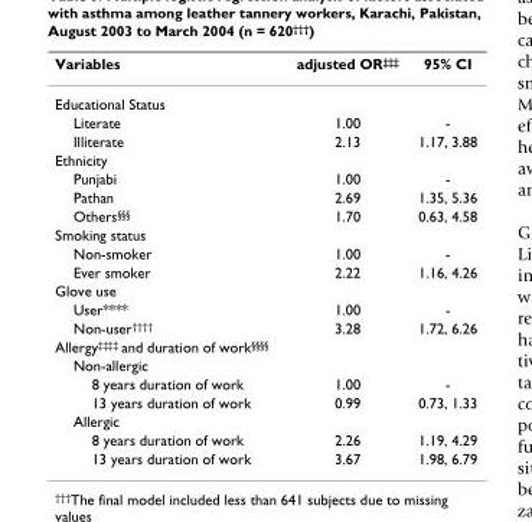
<table><thead><tr><td>Variables</td><td>adjusted OR‡‡‡</td><td>95% CI</td></tr></thead><tbody><tr><td colspan="3">Educational Status</td></tr><tr><td>Literate</td><td>1.00</td><td>-</td></tr><tr><td>Illiterate</td><td>2.13</td><td>1.17, 3.88</td></tr><tr><td colspan="3">Ethnicity</td></tr><tr><td>Punjabi</td><td>1.00</td><td>-</td></tr><tr><td>Pathan</td><td>2.69</td><td>1.35, 5.36</td></tr><tr><td>Others§§§</td><td>1.70</td><td>0.63, 4.58</td></tr><tr><td colspan="3">Smoking status</td></tr><tr><td>Non-smoker</td><td>1.00</td><td>-</td></tr><tr><td>Ever smoker</td><td>2.22</td><td>1.16, 4.26</td></tr><tr><td colspan="3">Glove use</td></tr><tr><td>User****</td><td>1.00</td><td>-</td></tr><tr><td>Non-user††††</td><td>3.28</td><td>1.72, 6.26</td></tr><tr><td colspan="3">Allergy‡‡‡‡ and duration of work§§§§</td></tr><tr><td colspan="3">Non-allergic</td></tr><tr><td>8 years duration of work</td><td>1.00</td><td>-</td></tr><tr><td>13 years duration of work</td><td>0.99</td><td>0.73, 1.33</td></tr><tr><td colspan="3">Allergic</td></tr><tr><td>8 years duration of work</td><td>2.26</td><td>1.19, 4.29</td></tr><tr><td>13 years duration of work</td><td>3.67</td><td>1.98, 6.79</td></tr></tbody></table>